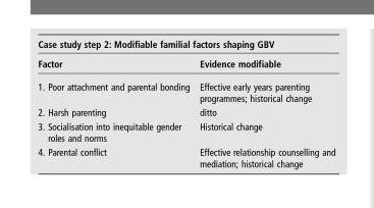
<table><thead><tr><td colspan="2">Case study step 2: Modifiable familial factors shaping GBV</td></tr><tr><td>Factor</td><td>Evidence modifiable</td></tr></thead><tbody><tr><td>1. Poor attachment and parental bonding</td><td>Effective early years parenting programmes; historical change</td></tr><tr><td>2. Harsh parenting</td><td>ditto</td></tr><tr><td>3. Socialisation into inequitable gender roles and norms</td><td>Historical change</td></tr><tr><td>4. Parental conflict</td><td>Effective relationship counselling and mediation; historical change</td></tr></tbody></table>